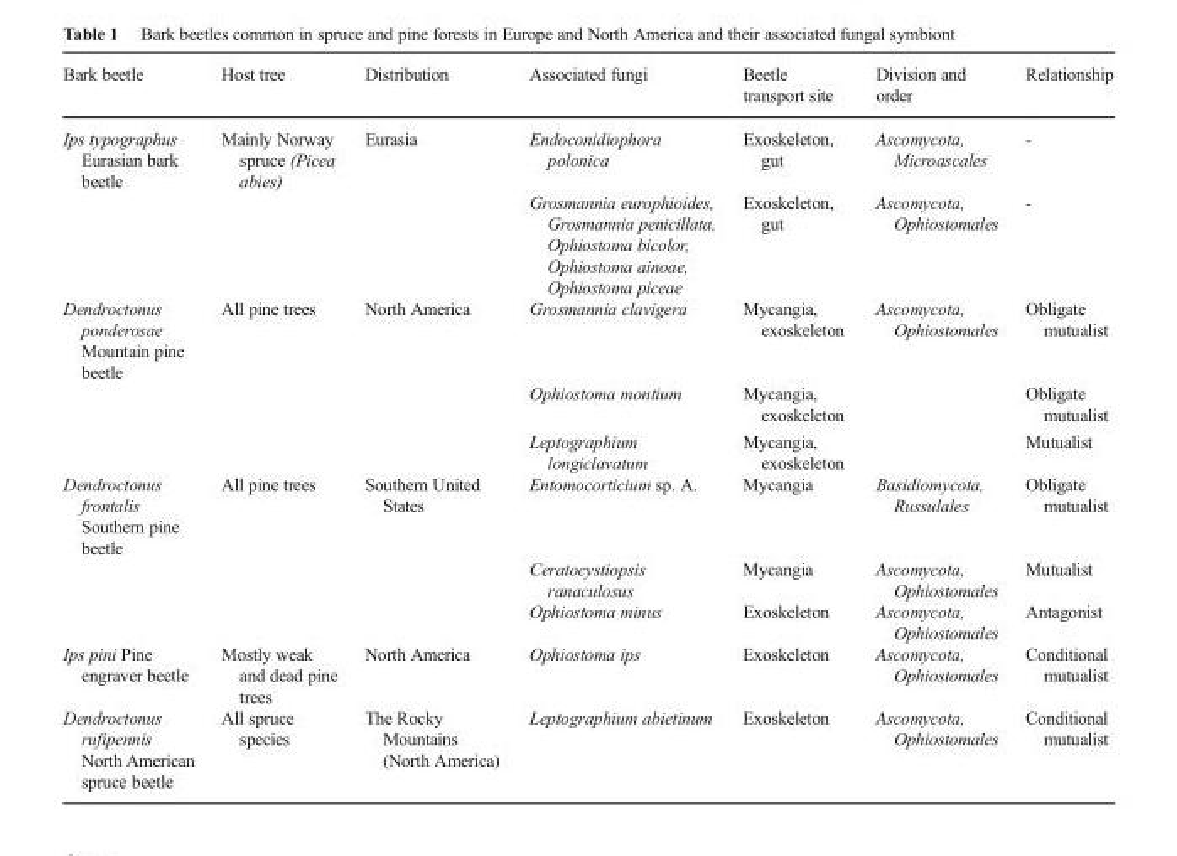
<table><thead><tr><td>Bark beetle</td><td>Host tree</td><td>Distribution</td><td>Associated fungi</td><td>Beetle transport site</td><td>Division and order</td><td>Relationship</td></tr></thead><tbody><tr><td rowspan="2">Ips typographus Eurasian bark beetle</td><td>Mainly Norway spruce (Picea abies)</td><td>Eurasia</td><td>Endoconidiophora polonica</td><td>Exoskeleton, gut</td><td>Ascomycota, Microascales</td><td>-</td></tr><tr><td></td><td></td><td>Grosmannia europhioides, Grosmannia penicillata, Ophiostoma bicolor, Ophiostoma ainoae, Ophiostoma piceae</td><td>Exoskeleton, gut</td><td>Ascomycota, Ophiostomales</td><td>-</td></tr><tr><td rowspan="3">Dendroctonus ponderosae Mountain pine beetle</td><td>All pine trees</td><td>North America</td><td>Grosmannia clavigera</td><td>Mycangia, exoskeleton</td><td>Ascomycota, Ophiostomales</td><td>Obligate mutualist</td></tr><tr><td></td><td></td><td>Ophiostoma montium</td><td>Mycangia, exoskeleton</td><td></td><td>Obligate mutualist</td></tr><tr><td></td><td></td><td>Leptographium longiclavatum</td><td>Mycangia, exoskeleton</td><td></td><td>Mutualist</td></tr><tr><td rowspan="3">Dendroctonus frontalis Southern pine beetle</td><td>All pine trees</td><td>Southern United States</td><td>Entomocorticium sp. A.</td><td>Mycangia</td><td>Basidiomycota, Russulales</td><td>Obligate mutualist</td></tr><tr><td></td><td></td><td>Ceratocystiopsis ranaculosus</td><td>Mycangia</td><td>Ascomycota, Ophiostomales</td><td>Mutualist</td></tr><tr><td></td><td></td><td>Ophiostoma minus</td><td>Exoskeleton</td><td>Ascomycota, Ophiostomales</td><td>Antagonist</td></tr><tr><td>Ips pini Pine engraver beetle</td><td>Mostly weak and dead pine trees</td><td>North America</td><td>Ophiostoma ips</td><td>Exoskeleton</td><td>Ascomycota, Ophiostomales</td><td>Conditional mutualist</td></tr><tr><td>Dendroctonus rufipennis North American spruce beetle</td><td>All spruce species</td><td>The Rocky Mountains (North America)</td><td>Leptographium abietinum</td><td>Exoskeleton</td><td>Ascomycota, Ophiostomales</td><td>Conditional mutualist</td></tr></tbody></table>